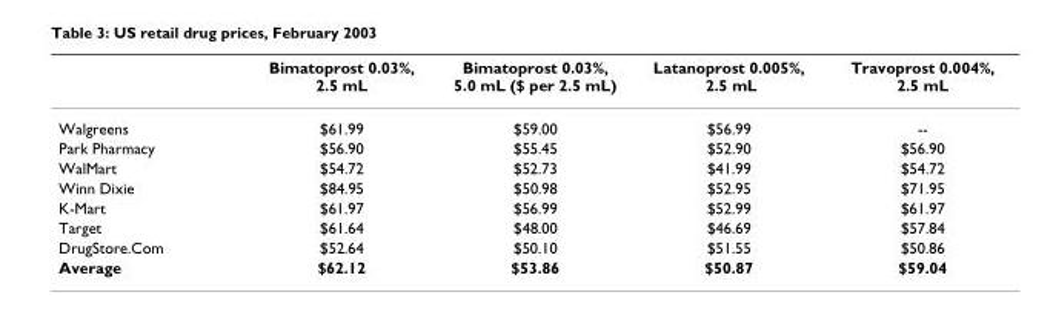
<table><thead><tr><td></td><td>Bimatoprost 0.03%, 2.5 mL</td><td>Bimatoprost 0.03%, 5.0 mL ($ per 2.5 mL)</td><td>Latanoprost 0.005%, 2.5 mL</td><td>Travoprost 0.004%, 2.5 mL</td></tr></thead><tbody><tr><td>Walgreens</td><td>$61.99</td><td>$59.00</td><td>$56.99</td><td>--</td></tr><tr><td>Park Pharmacy</td><td>$56.90</td><td>$55.45</td><td>$52.90</td><td>$56.90</td></tr><tr><td>WalMart</td><td>$54.72</td><td>$52.73</td><td>$41.99</td><td>$54.72</td></tr><tr><td>Winn Dixie</td><td>$84.95</td><td>$50.98</td><td>$52.95</td><td>$71.95</td></tr><tr><td>K-Mart</td><td>$61.97</td><td>$56.99</td><td>$52.99</td><td>$61.97</td></tr><tr><td>Target</td><td>$61.64</td><td>$48.00</td><td>$46.69</td><td>$57.84</td></tr><tr><td>DrugStore.Com</td><td>$52.64</td><td>$50.10</td><td>$51.55</td><td>$50.86</td></tr><tr><td>Average</td><td>$62.12</td><td>$53.86</td><td>$50.87</td><td>$59.04</td></tr></tbody></table>